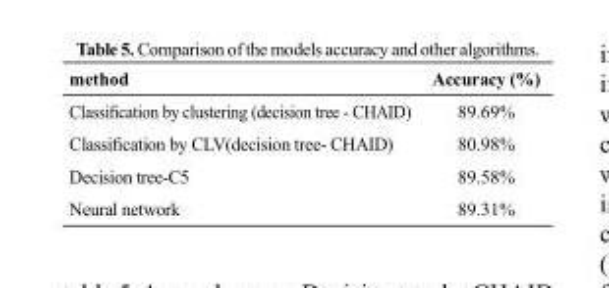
<table><thead><tr><td>method</td><td>Accuracy (%)</td></tr></thead><tbody><tr><td>Classification by clustering (decision tree - CHAID)</td><td>89.69%</td></tr><tr><td>Classification by CLV(decision tree- CHAID)</td><td>80.98%</td></tr><tr><td>Decision tree-C5</td><td>89.58%</td></tr><tr><td>Neural network</td><td>89.31%</td></tr></tbody></table>